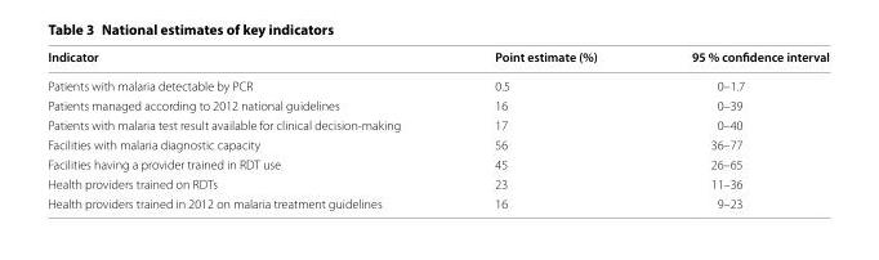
<table><thead><tr><td>Indicator</td><td>Point estimate (%)</td><td>95 % confidence interval</td></tr></thead><tbody><tr><td>Patients with malaria detectable by PCR</td><td>0.5</td><td>0–1.7</td></tr><tr><td>Patients managed according to 2012 national guidelines</td><td>16</td><td>0–39</td></tr><tr><td>Patients with malaria test result available for clinical decision-making</td><td>17</td><td>0–40</td></tr><tr><td>Facilities with malaria diagnostic capacity</td><td>56</td><td>36–77</td></tr><tr><td>Facilities having a provider trained in RDT use</td><td>45</td><td>26–65</td></tr><tr><td>Health providers trained on RDTs</td><td>23</td><td>11–36</td></tr><tr><td>Health providers trained in 2012 on malaria treatment guidelines</td><td>16</td><td>9–23</td></tr></tbody></table>